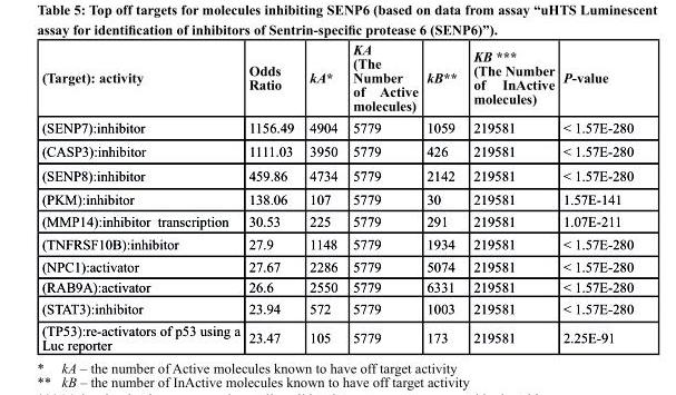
<table><thead><tr><td>(target): activity</td><td>odds ratio</td><td>kA*</td><td>KA (the number of Active molecules)</td><td>kB**</td><td>KB *** (the number of InActive molecules)</td><td>P-value</td></tr></thead><tbody><tr><td>(SENP7):inhibitor</td><td>1156.49</td><td>4904</td><td>5779</td><td>1059</td><td>219581</td><td>&lt; 1.57E-280</td></tr><tr><td>(CASP3):inhibitor</td><td>1111.03</td><td>3950</td><td>5779</td><td>426</td><td>219581</td><td>&lt; 1.57E-280</td></tr><tr><td>(SENP8):inhibitor</td><td>459.86</td><td>4734</td><td>5779</td><td>2142</td><td>219581</td><td>&lt; 1.57E-280</td></tr><tr><td>(PKM):inhibitor</td><td>138.06</td><td>107</td><td>5779</td><td>30</td><td>219581</td><td>1.57E-141</td></tr><tr><td>(MMP14):inhibitor transcription</td><td>30.53</td><td>225</td><td>5779</td><td>291</td><td>219581</td><td>1.07E-211</td></tr><tr><td>(TNFRSF10B):inhibitor</td><td>27.9</td><td>1148</td><td>5779</td><td>1934</td><td>219581</td><td>&lt; 1.57E-280</td></tr><tr><td>(NPC1):activator</td><td>27.67</td><td>2286</td><td>5779</td><td>5074</td><td>219581</td><td>&lt; 1.57E-280</td></tr><tr><td>(RAB9A):activator</td><td>26.6</td><td>2550</td><td>5779</td><td>6331</td><td>219581</td><td>&lt; 1.57E-280</td></tr><tr><td>(STAT3):inhibitor</td><td>23.94</td><td>572</td><td>5779</td><td>1003</td><td>219581</td><td>&lt; 1.57E-280</td></tr><tr><td>(TP53):re-activators of p53 using a Luc reporter</td><td>23.47</td><td>105</td><td>5779</td><td>173</td><td>219581</td><td>2.25E-91</td></tr></tbody></table>